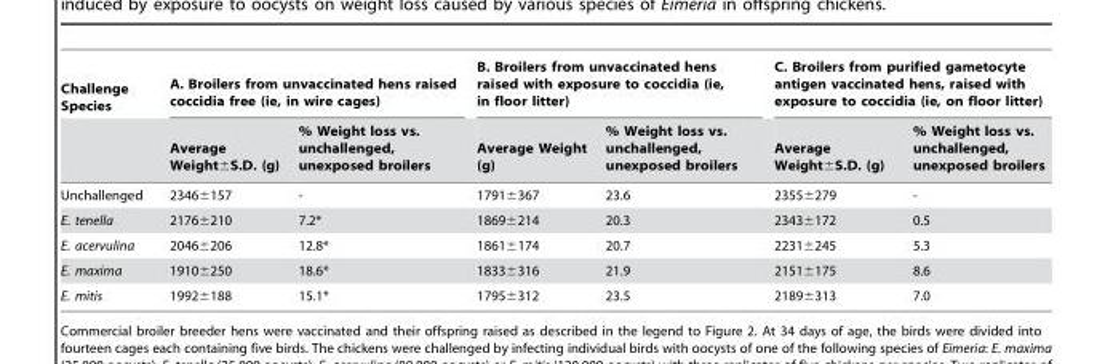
<table><thead><tr><td rowspan="2">Challenge Species</td><td colspan="2">A. Broilers from unvaccinated hens raised coccidia free (ie, in wire cages)</td><td colspan="2">B. Broilers from unvaccinated hens raised with exposure to coccidia (ie, in floor litter)</td><td colspan="2">C. Broilers from purified gametocyte antigen vaccinated hens, raised with exposure to coccidia (ie, on floor litter)</td></tr><tr><td>Average Weight±S.D. (g)</td><td>% Weight loss vs. unchallenged, unexposed broilers</td><td>Average Weight (g)</td><td>% Weight loss vs. unchallenged, unexposed broilers</td><td>Average Weight±S.D. (g)</td><td>% Weight loss vs. unchallenged, unexposed broilers</td></tr></thead><tbody><tr><td>Unchallenged</td><td>2346±157</td><td>-</td><td>1791±367</td><td>23.6</td><td>2355±279</td><td>-</td></tr><tr><td>E. tenella</td><td>2176±210</td><td>7.2*</td><td>1869±214</td><td>20.3</td><td>2343±172</td><td>0.5</td></tr><tr><td>E. acervulina</td><td>2046±206</td><td>12.8*</td><td>1861±174</td><td>20.7</td><td>2231±245</td><td>5.3</td></tr><tr><td>E. maxima</td><td>1910±250</td><td>18.6*</td><td>1833±316</td><td>21.9</td><td>2151±175</td><td>8.6</td></tr><tr><td>E. mitis</td><td>1992±188</td><td>15.1*</td><td>1795±312</td><td>23.5</td><td>2189±313</td><td>7.0</td></tr></tbody></table>